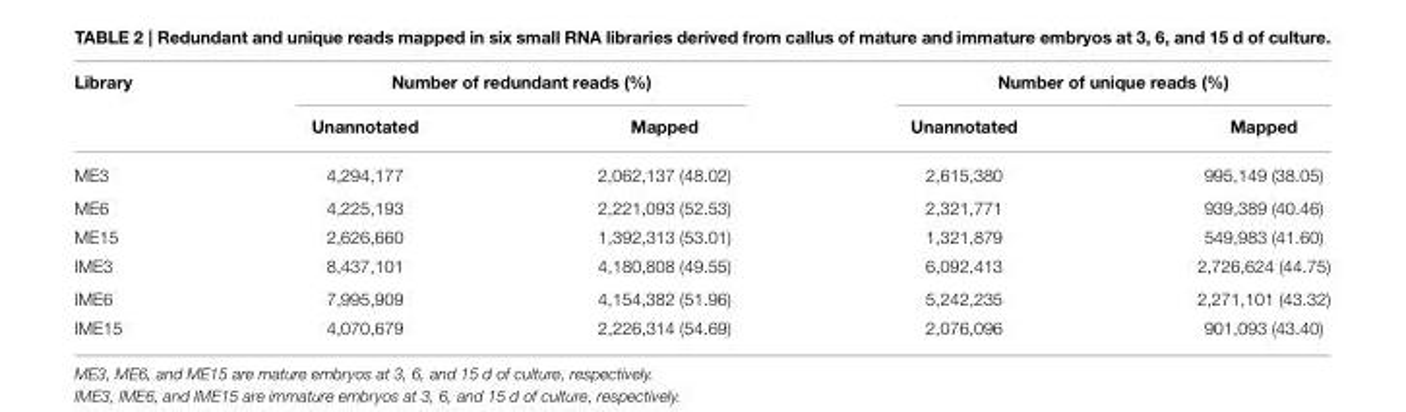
<table><thead><tr><td rowspan="2">Library</td><td colspan="2">Number of redundant reads (%)</td><td colspan="2">Number of unique reads (%)</td></tr><tr><td>Unannotated</td><td>Mapped</td><td>Unannotated</td><td>Mapped</td></tr></thead><tbody><tr><td>ME3</td><td>4,294,177</td><td>2,062,137 (48.02)</td><td>2,615,380</td><td>995,149 (38.05)</td></tr><tr><td>ME6</td><td>4,225,193</td><td>2,221,093 (52.53)</td><td>2,321,771</td><td>939,389 (40.46)</td></tr><tr><td>ME15</td><td>2,626,660</td><td>1,392,313 (53.01)</td><td>1,321,879</td><td>549,983 (41.60)</td></tr><tr><td>IME3</td><td>8,437,101</td><td>4,180,808 (49.55)</td><td>6,092,413</td><td>2,726,624 (44.75)</td></tr><tr><td>IME6</td><td>7,995,909</td><td>4,154,382 (51.96)</td><td>5,242,235</td><td>2,271,101 (43.32)</td></tr><tr><td>IME15</td><td>4,070,679</td><td>2,226,314 (54.69)</td><td>2,076,096</td><td>901,093 (43.40)</td></tr></tbody></table>